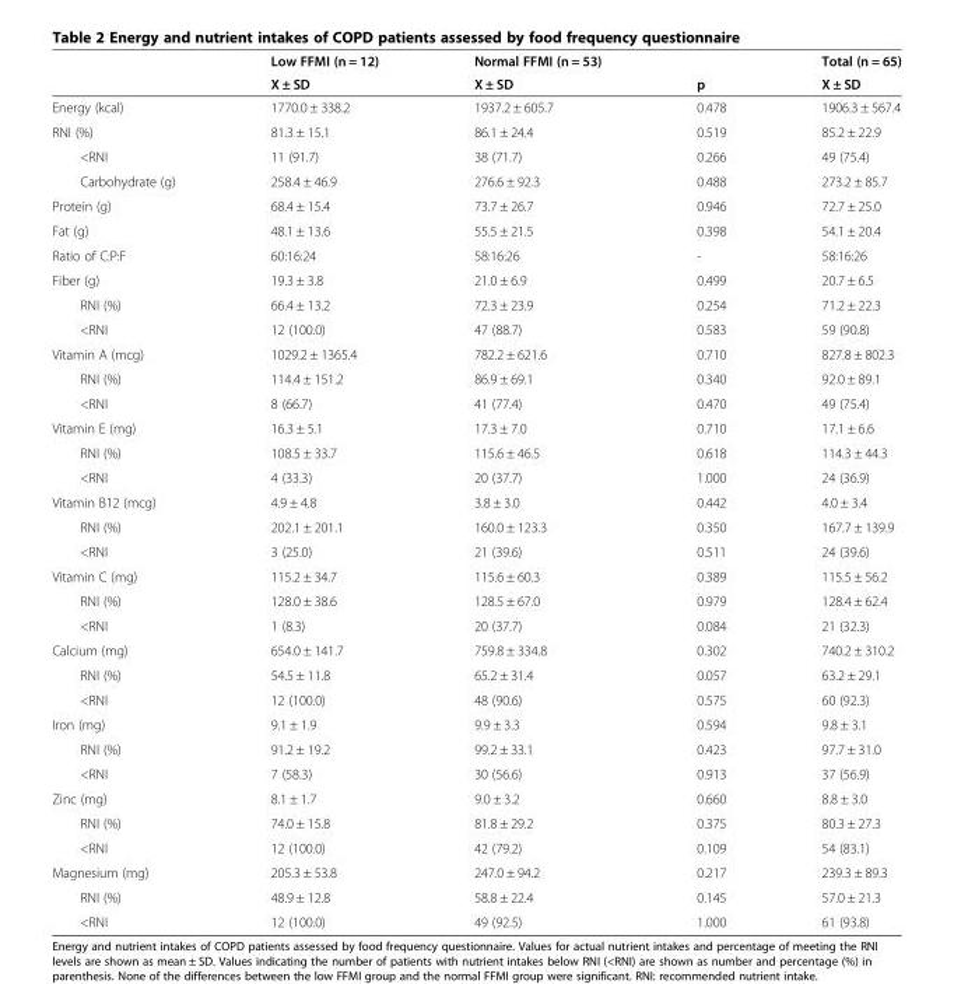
<table><thead><tr><td rowspan="2"></td><td rowspan="2">Low FFMI (n = 12) X ± SD</td><td rowspan="2">Normal FFMI (n = 53) X ± SD</td><td rowspan="2">p</td><td rowspan="2">Total (n = 65) X ± SD</td></tr><tr></tr></thead><tbody><tr><td>Energy (kcal)</td><td>1770.0 ± 338.2</td><td>1937.2 ± 605.7</td><td>0.478</td><td>1906.3 ± 567.4</td></tr><tr><td>RNI (%)</td><td>81.3 ± 15.1</td><td>86.1 ± 24.4</td><td>0.519</td><td>85.2 ± 22.9</td></tr><tr><td>&lt;RNI</td><td>11 (91.7)</td><td>38 (71.7)</td><td>0.266</td><td>49 (75.4)</td></tr><tr><td>Carbohydrate (g)</td><td>258.4 ± 46.9</td><td>276.6 ± 92.3</td><td>0.488</td><td>273.2 ± 85.7</td></tr><tr><td>Protein (g)</td><td>68.4 ± 15.4</td><td>73.7 ± 26.7</td><td>0.946</td><td>72.7 ± 25.0</td></tr><tr><td>Fat (g)</td><td>48.1 ± 13.6</td><td>55.5 ± 21.5</td><td>0.398</td><td>54.1 ± 20.4</td></tr><tr><td>Ratio of C:P:F</td><td>60:16:24</td><td>58:16:26</td><td>-</td><td>58:16:26</td></tr><tr><td>Fiber (g)</td><td>19.3 ± 3.8</td><td>21.0 ± 6.9</td><td>0.499</td><td>20.7 ± 6.5</td></tr><tr><td>RNI (%)</td><td>66.4 ± 13.2</td><td>72.3 ± 23.9</td><td>0.254</td><td>71.2 ± 22.3</td></tr><tr><td>&lt;RNI</td><td>12 (100.0)</td><td>47 (88.7)</td><td>0.583</td><td>59 (90.8)</td></tr><tr><td>Vitamin A (mcg)</td><td>1029.2 ± 1365.4</td><td>782.2 ± 621.6</td><td>0.710</td><td>827.8 ± 802.3</td></tr><tr><td>RNI (%)</td><td>114.4 ± 151.2</td><td>86.9 ± 69.1</td><td>0.340</td><td>92.0 ± 89.1</td></tr><tr><td>&lt;RNI</td><td>8 (66.7)</td><td>41 (77.4)</td><td>0.470</td><td>49 (75.4)</td></tr><tr><td>Vitamin E (mg)</td><td>16.3 ± 5.1</td><td>17.3 ± 7.0</td><td>0.710</td><td>17.1 ± 6.6</td></tr><tr><td>RNI (%)</td><td>108.5 ± 33.7</td><td>115.6 ± 46.5</td><td>0.618</td><td>114.3 ± 44.3</td></tr><tr><td>&lt;RNI</td><td>4 (33.3)</td><td>20 (37.7)</td><td>1.000</td><td>24 (36.9)</td></tr><tr><td>Vitamin B12 (mcg)</td><td>4.9 ± 4.8</td><td>3.8 ± 3.0</td><td>0.442</td><td>4.0 ± 3.4</td></tr><tr><td>RNI (%)</td><td>202.1 ± 201.1</td><td>160.0 ± 123.3</td><td>0.350</td><td>167.7 ± 139.9</td></tr><tr><td>&lt;RNI</td><td>3 (25.0)</td><td>21 (39.6)</td><td>0.511</td><td>24 (39.6)</td></tr><tr><td>Vitamin C (mg)</td><td>115.2 ± 34.7</td><td>115.6 ± 60.3</td><td>0.389</td><td>115.5 ± 56.2</td></tr><tr><td>RNI (%)</td><td>128.0 ± 38.6</td><td>128.5 ± 67.0</td><td>0.979</td><td>128.4 ± 62.4</td></tr><tr><td>&lt;RNI</td><td>1 (8.3)</td><td>20 (37.7)</td><td>0.084</td><td>21 (32.3)</td></tr><tr><td>Calcium (mg)</td><td>654.0 ± 141.7</td><td>759.8 ± 334.8</td><td>0.302</td><td>740.2 ± 310.2</td></tr><tr><td>RNI (%)</td><td>54.5 ± 11.8</td><td>65.2 ± 31.4</td><td>0.057</td><td>63.2 ± 29.1</td></tr><tr><td>&lt;RNI</td><td>12 (100.0)</td><td>48 (90.6)</td><td>0.575</td><td>60 (92.3)</td></tr><tr><td>Iron (mg)</td><td>9.1 ± 1.9</td><td>9.9 ± 3.3</td><td>0.594</td><td>9.8 ± 3.1</td></tr><tr><td>RNI (%)</td><td>91.2 ± 19.2</td><td>99.2 ± 33.1</td><td>0.423</td><td>97.7 ± 31.0</td></tr><tr><td>&lt;RNI</td><td>7 (58.3)</td><td>30 (56.6)</td><td>0.913</td><td>37 (56.9)</td></tr><tr><td>Zinc (mg)</td><td>8.1 ± 1.7</td><td>9.0 ± 3.2</td><td>0.660</td><td>8.8 ± 3.0</td></tr><tr><td>RNI (%)</td><td>74.0 ± 15.8</td><td>81.8 ± 29.2</td><td>0.375</td><td>80.3 ± 27.3</td></tr><tr><td>&lt;RNI</td><td>12 (100.0)</td><td>42 (79.2)</td><td>0.109</td><td>54 (83.1)</td></tr><tr><td>Magnesium (mg)</td><td>205.3 ± 53.8</td><td>247.0 ± 94.2</td><td>0.217</td><td>239.3 ± 89.3</td></tr><tr><td>RNI (%)</td><td>48.9 ± 12.8</td><td>58.8 ± 22.4</td><td>0.145</td><td>57.0 ± 21.3</td></tr><tr><td>&lt;RNI</td><td>12 (100.0)</td><td>49 (92.5)</td><td>1.000</td><td>61 (93.8)</td></tr></tbody></table>